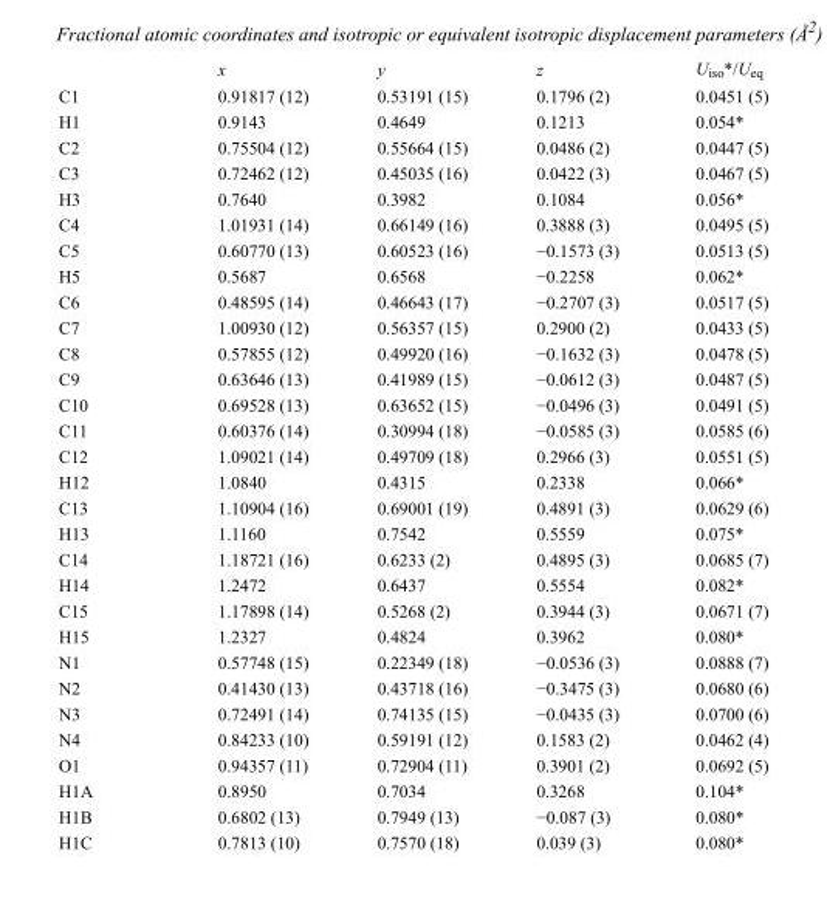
<table><thead><tr><td></td><td>x</td><td>y</td><td>z</td><td>U<sub>iso</sub>*/U<sub>eq</sub></td></tr></thead><tbody><tr><td>C1</td><td>0.91817 (12)</td><td>0.53191 (15)</td><td>0.1796 (2)</td><td>0.0451 (5)</td></tr><tr><td>H1</td><td>0.9143</td><td>0.4649</td><td>0.1213</td><td>0.054*</td></tr><tr><td>C2</td><td>0.75504 (12)</td><td>0.55664 (15)</td><td>0.0486 (2)</td><td>0.0447 (5)</td></tr><tr><td>C3</td><td>0.72462 (12)</td><td>0.45035 (16)</td><td>0.0422 (3)</td><td>0.0467 (5)</td></tr><tr><td>H3</td><td>0.7640</td><td>0.3982</td><td>0.1084</td><td>0.056*</td></tr><tr><td>C4</td><td>1.01931 (14)</td><td>0.66149 (16)</td><td>0.3888 (3)</td><td>0.0495 (5)</td></tr><tr><td>C5</td><td>0.60770 (13)</td><td>0.60523 (16)</td><td>−0.1573 (3)</td><td>0.0513 (5)</td></tr><tr><td>H5</td><td>0.5687</td><td>0.6568</td><td>−0.2258</td><td>0.062*</td></tr><tr><td>C6</td><td>0.48595 (14)</td><td>0.46643 (17)</td><td>−0.2707 (3)</td><td>0.0517 (5)</td></tr><tr><td>C7</td><td>1.00930 (12)</td><td>0.56357 (15)</td><td>0.2900 (2)</td><td>0.0433 (5)</td></tr><tr><td>C8</td><td>0.57855 (12)</td><td>0.49920 (16)</td><td>−0.1632 (3)</td><td>0.0478 (5)</td></tr><tr><td>C9</td><td>0.63646 (13)</td><td>0.41989 (15)</td><td>−0.0612 (3)</td><td>0.0487 (5)</td></tr><tr><td>C10</td><td>0.69528 (13)</td><td>0.63652 (15)</td><td>−0.0496 (3)</td><td>0.0491 (5)</td></tr><tr><td>C11</td><td>0.60376 (14)</td><td>0.30994 (18)</td><td>−0.0585 (3)</td><td>0.0585 (6)</td></tr><tr><td>C12</td><td>1.09021 (14)</td><td>0.49709 (18)</td><td>0.2966 (3)</td><td>0.0551 (5)</td></tr><tr><td>H12</td><td>1.0840</td><td>0.4315</td><td>0.2338</td><td>0.066*</td></tr><tr><td>C13</td><td>1.10904 (16)</td><td>0.69001 (19)</td><td>0.4891 (3)</td><td>0.0629 (6)</td></tr><tr><td>H13</td><td>1.1160</td><td>0.7542</td><td>0.5559</td><td>0.075*</td></tr><tr><td>C14</td><td>1.18721 (16)</td><td>0.6233 (2)</td><td>0.4895 (3)</td><td>0.0685 (7)</td></tr><tr><td>H14</td><td>1.2472</td><td>0.6437</td><td>0.5554</td><td>0.082*</td></tr><tr><td>C15</td><td>1.17898 (14)</td><td>0.5268 (2)</td><td>0.3944 (3)</td><td>0.0671 (7)</td></tr><tr><td>H15</td><td>1.2327</td><td>0.4824</td><td>0.3962</td><td>0.080*</td></tr><tr><td>N1</td><td>0.57748 (15)</td><td>0.22349 (18)</td><td>−0.0536 (3)</td><td>0.0888 (7)</td></tr><tr><td>N2</td><td>0.41430 (13)</td><td>0.43718 (16)</td><td>−0.3475 (3)</td><td>0.0680 (6)</td></tr><tr><td>N3</td><td>0.72491 (14)</td><td>0.74135 (15)</td><td>−0.0435 (3)</td><td>0.0700 (6)</td></tr><tr><td>N4</td><td>0.84233 (10)</td><td>0.59191 (12)</td><td>0.1583 (2)</td><td>0.0462 (4)</td></tr><tr><td>O1</td><td>0.94357 (11)</td><td>0.72904 (11)</td><td>0.3901 (2)</td><td>0.0692 (5)</td></tr><tr><td>H1A</td><td>0.8950</td><td>0.7034</td><td>0.3268</td><td>0.104*</td></tr><tr><td>H1B</td><td>0.6802 (13)</td><td>0.7949 (13)</td><td>−0.087 (3)</td><td>0.080*</td></tr><tr><td>H1C</td><td>0.7813 (10)</td><td>0.7570 (18)</td><td>0.039 (3)</td><td>0.080*</td></tr></tbody></table>